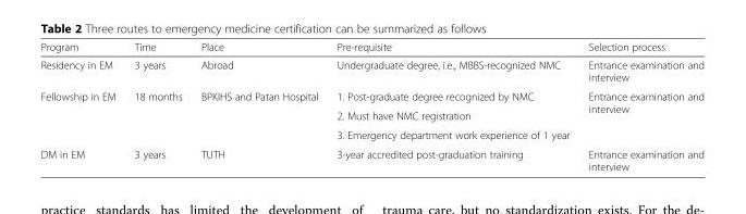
<table><thead><tr><td>Program</td><td>Time</td><td>Place</td><td>Pre-requisite</td><td>Selection process</td></tr></thead><tbody><tr><td>Residency in EM</td><td>3 years</td><td>Abroad</td><td>Undergraduate degree, i.e., MBBS-recognized NMC</td><td>Entrance examination and interview</td></tr><tr><td rowspan="3">Fellowship in EM</td><td rowspan="3">18 months</td><td rowspan="3">BPKIHS and Patan Hospital</td><td>1. Post-graduate degree recognized by NMC</td><td rowspan="3">Entrance examination and interview</td></tr><tr><td>2. Must have NMC registration</td></tr><tr><td>3. Emergency department work experience of 1 year</td></tr><tr><td>DM in EM</td><td>3 years</td><td>TUTH</td><td>3-year accredited post-graduation training</td><td>Entrance examination and interview</td></tr></tbody></table>